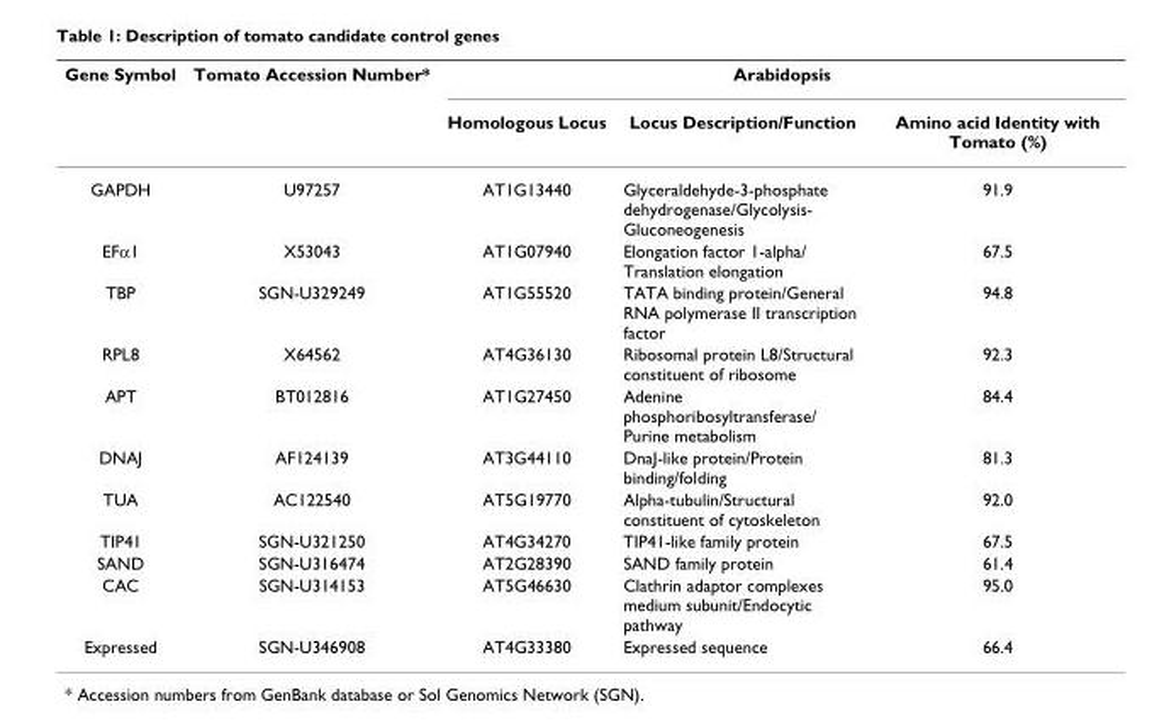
<table><thead><tr><td rowspan="2">Gene Symbol</td><td rowspan="2">Tomato Accession Number*</td><td colspan="3">Arabidopsis</td></tr><tr><td>Homologous Locus</td><td>Locus Description/Function</td><td>Amino acid Identity with Tomato (%)</td></tr></thead><tbody><tr><td>GAPDH</td><td>U97257</td><td>AT1G13440</td><td>Glyceraldehyde-3-phosphate dehydrogenase/Glycolysis- Gluconeogenesis</td><td>91.9</td></tr><tr><td>EFα1</td><td>X53043</td><td>AT1G07940</td><td>Elongation factor 1-alpha/ Translation elongation</td><td>67.5</td></tr><tr><td>TBP</td><td>SGN-U329249</td><td>AT1G55520</td><td>TATA binding protein/General RNA polymerase II transcription factor</td><td>94.8</td></tr><tr><td>RPL8</td><td>X64562</td><td>AT4G36130</td><td>Ribosomal protein L8/Structural constituent of ribosome</td><td>92.3</td></tr><tr><td>APT</td><td>BT012816</td><td>AT1G27450</td><td>Adenine phosphoribosyltransferase/ Purine metabolism</td><td>84.4</td></tr><tr><td>DNAJ</td><td>AF124139</td><td>AT3G44110</td><td>DnaJ-like protein/Protein binding/folding</td><td>81.3</td></tr><tr><td>TUA</td><td>AC122540</td><td>AT5G19770</td><td>Alpha-tubulin/Structural constituent of cytoskeleton</td><td>92.0</td></tr><tr><td>TIP41</td><td>SGN-U321250</td><td>AT4G34270</td><td>TIP41-like family protein</td><td>67.5</td></tr><tr><td>SAND</td><td>SGN-U316474</td><td>AT2G28390</td><td>SAND family protein</td><td>61.4</td></tr><tr><td>CAC</td><td>SGN-U314153</td><td>AT5G46630</td><td>Clathrin adaptor complexes medium subunit/Endocytic pathway</td><td>95.0</td></tr><tr><td>Expressed</td><td>SGN-U346908</td><td>AT4G33380</td><td>Expressed sequence</td><td>66.4</td></tr></tbody></table>